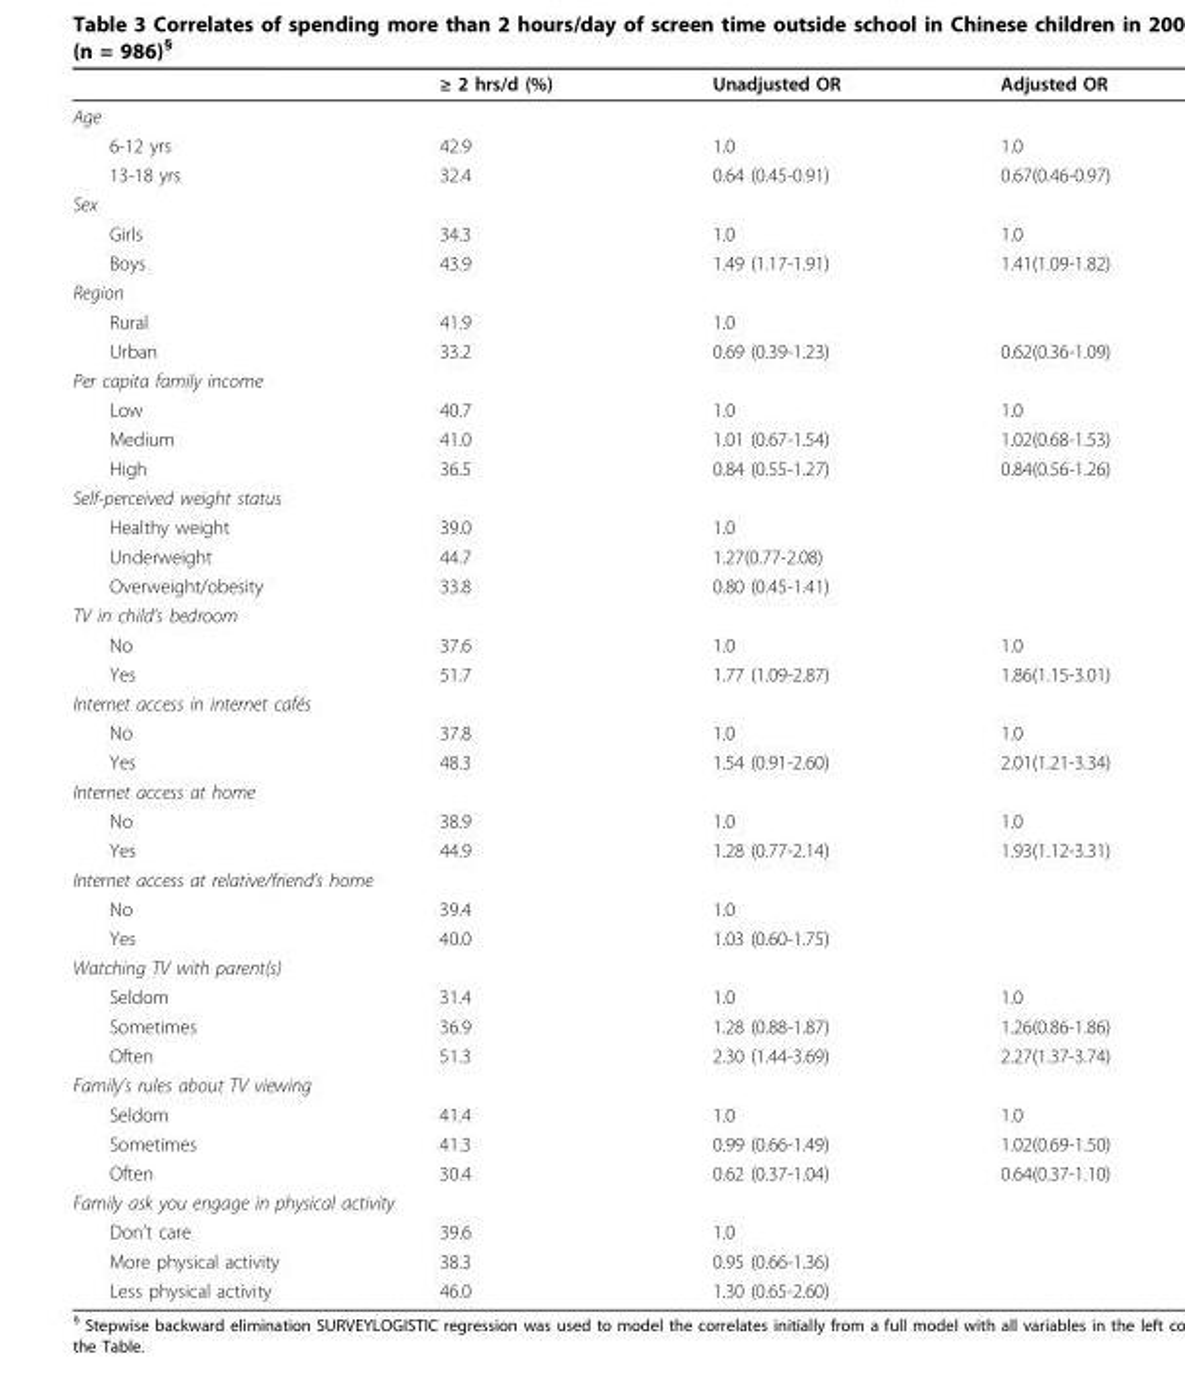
<table><thead><tr><td></td><td>≥ 2 hrs/d (%)</td><td>Unadjusted OR</td><td>Adjusted OR</td></tr></thead><tbody><tr><td colspan="4">Age</td></tr><tr><td>6-12 yrs</td><td>42.9</td><td>1.0</td><td>1.0</td></tr><tr><td>13-18 yrs</td><td>32.4</td><td>0.64 (0.45-0.91)</td><td>0.67(0.46-0.97)</td></tr><tr><td colspan="4">Sex</td></tr><tr><td>Girls</td><td>34.3</td><td>1.0</td><td>1.0</td></tr><tr><td>Boys</td><td>43.9</td><td>1.49 (1.17-1.91)</td><td>1.41(1.09-1.82)</td></tr><tr><td colspan="4">Region</td></tr><tr><td>Rural</td><td>41.9</td><td>1.0</td><td></td></tr><tr><td>Urban</td><td>33.2</td><td>0.69 (0.39-1.23)</td><td>0.62(0.36-1.09)</td></tr><tr><td colspan="4">Per capita family income</td></tr><tr><td>Low</td><td>40.7</td><td>1.0</td><td>1.0</td></tr><tr><td>Medium</td><td>41.0</td><td>1.01 (0.67-1.54)</td><td>1.02(0.68-1.53)</td></tr><tr><td>High</td><td>36.5</td><td>0.84 (0.55-1.27)</td><td>0.84(0.56-1.26)</td></tr><tr><td colspan="4">Self-perceived weight status</td></tr><tr><td>Healthy weight</td><td>39.0</td><td>1.0</td><td></td></tr><tr><td>Underweight</td><td>44.7</td><td>1.27(0.77-2.08)</td><td></td></tr><tr><td>Overweight/obesity</td><td>33.8</td><td>0.80 (0.45-1.41)</td><td></td></tr><tr><td colspan="4">TV in child’s bedroom</td></tr><tr><td>No</td><td>37.6</td><td>1.0</td><td>1.0</td></tr><tr><td>Yes</td><td>51.7</td><td>1.77 (1.09-2.87)</td><td>1.86(1.15-3.01)</td></tr><tr><td colspan="4">Internet access in internet cafés</td></tr><tr><td>No</td><td>37.8</td><td>1.0</td><td>1.0</td></tr><tr><td>Yes</td><td>48.3</td><td>1.54 (0.91-2.60)</td><td>2.01(1.21-3.34)</td></tr><tr><td colspan="4">Internet access at home</td></tr><tr><td>No</td><td>38.9</td><td>1.0</td><td>1.0</td></tr><tr><td>Yes</td><td>44.9</td><td>1.28 (0.77-2.14)</td><td>1.93(1.12-3.31)</td></tr><tr><td colspan="4">Internet access at relative/friend’s home</td></tr><tr><td>No</td><td>39.4</td><td>1.0</td><td></td></tr><tr><td>Yes</td><td>40.0</td><td>1.03 (0.60-1.75)</td><td></td></tr><tr><td colspan="4">Watching TV with parent(s)</td></tr><tr><td>Seldom</td><td>31.4</td><td>1.0</td><td>1.0</td></tr><tr><td>Sometimes</td><td>36.9</td><td>1.28 (0.88-1.87)</td><td>1.26(0.86-1.86)</td></tr><tr><td>Often</td><td>51.3</td><td>2.30 (1.44-3.69)</td><td>2.27(1.37-3.74)</td></tr><tr><td colspan="4">Family’s rules about TV viewing</td></tr><tr><td>Seldom</td><td>41.4</td><td>1.0</td><td>1.0</td></tr><tr><td>Sometimes</td><td>41.3</td><td>0.99 (0.66-1.49)</td><td>1.02(0.69-1.50)</td></tr><tr><td>Often</td><td>30.4</td><td>0.62 (0.37-1.04)</td><td>0.64(0.37-1.10)</td></tr><tr><td colspan="4">Family ask you engage in physical activity</td></tr><tr><td>Don’t care</td><td>39.6</td><td>1.0</td><td></td></tr><tr><td>More physical activity</td><td>38.3</td><td>0.95 (0.66-1.36)</td><td></td></tr><tr><td>Less physical activity</td><td>46.0</td><td>1.30 (0.65-2.60)</td><td></td></tr></tbody></table>